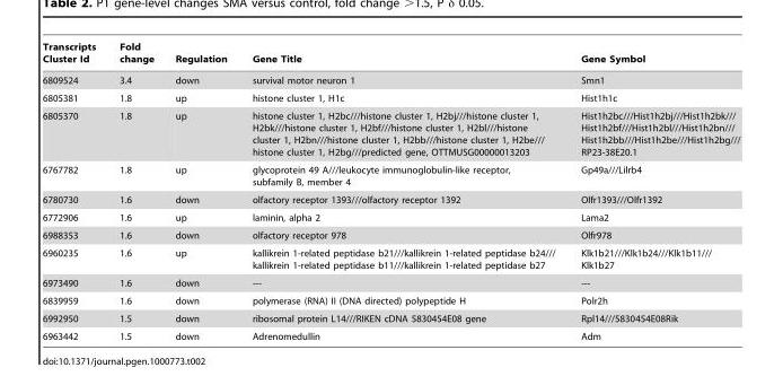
<table><thead><tr><td>Transcripts Cluster Id</td><td>Fold change</td><td>Regulation</td><td>Gene Title</td><td>Gene Symbol</td></tr></thead><tbody><tr><td>6809524</td><td>3.4</td><td>down</td><td>survival motor neuron 1</td><td>Smn1</td></tr><tr><td>6805381</td><td>1.8</td><td>up</td><td>histone cluster 1, H1c</td><td>Hist1h1c</td></tr><tr><td>6805370</td><td>1.8</td><td>up</td><td>histone cluster 1, H2bc///histone cluster 1, H2bj///histone cluster 1, H2bk///histone cluster 1, H2bf///histone cluster 1, H2bl///histone cluster 1, H2bn///histone cluster 1, H2bb///histone cluster 1, H2be/// histone cluster 1, H2bg///predicted gene, OTTMUSG00000013203</td><td>Hist1h2bc///Hist1h2bj///Hist1h2bk/// Hist1h2bf///Hist1h2bl///Hist1h2bn/// Hist1h2bb///Hist1h2be///Hist1h2bg/// RP23-38E20.1</td></tr><tr><td>6767782</td><td>1.8</td><td>up</td><td>glycoprotein 49 A///leukocyte immunoglobulin-like receptor, subfamily B, member 4</td><td>Gp49a///Lilrb4</td></tr><tr><td>6780730</td><td>1.6</td><td>down</td><td>olfactory receptor 1393///olfactory receptor 1392</td><td>Olfr1393///Olfr1392</td></tr><tr><td>6772906</td><td>1.6</td><td>up</td><td>laminin, alpha 2</td><td>Lama2</td></tr><tr><td>6988353</td><td>1.6</td><td>down</td><td>olfactory receptor 978</td><td>Olfr978</td></tr><tr><td>6960235</td><td>1.6</td><td>up</td><td>kallikrein 1-related peptidase b21///kallikrein 1-related peptidase b24/// kallikrein 1-related peptidase b11///kallikrein 1-related peptidase b27</td><td>Klk1b21///Klk1b24///Klk1b11/// Klk1b27</td></tr><tr><td>6973490</td><td>1.6</td><td>down</td><td>---</td><td>---</td></tr><tr><td>6839959</td><td>1.6</td><td>down</td><td>polymerase (RNA) II (DNA directed) polypeptide H</td><td>Polr2h</td></tr><tr><td>6992950</td><td>1.5</td><td>down</td><td>ribosomal protein L14///RIKEN cDNA 5830454E08 gene</td><td>Rpl14///5830454E08Rik</td></tr><tr><td>6963442</td><td>1.5</td><td>down</td><td>Adrenomedullin</td><td>Adm</td></tr></tbody></table>